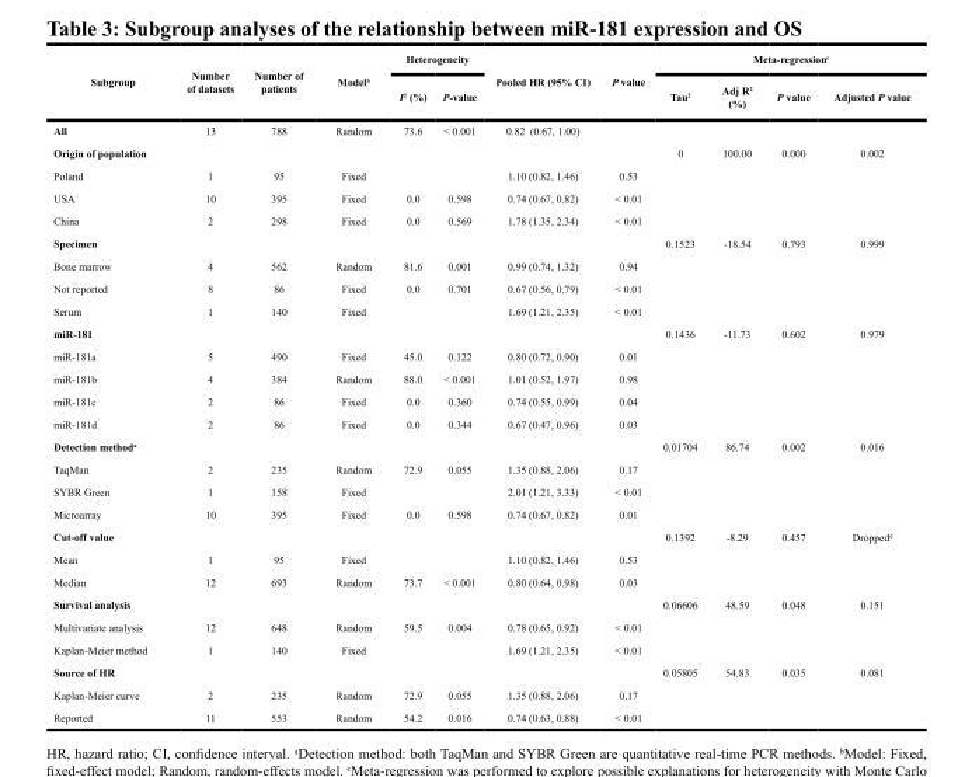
<table><thead><tr><td rowspan="2">Subgroup</td><td rowspan="2">Number of datasets</td><td rowspan="2">Number of patients</td><td rowspan="2">Model<sup>b</sup></td><td colspan="2">Heterogeneity</td><td rowspan="2">Pooled HR (95% CI)</td><td rowspan="2">P value</td><td colspan="4">Meta-regression<sup>c</sup></td></tr><tr><td>I<sup>2</sup> (%)</td><td>P-value</td><td>Tau<sup>2</sup></td><td>Adj R<sup>2</sup> (%)</td><td>P value</td><td>Adjusted P value</td></tr></thead><tbody><tr><td>All</td><td>13</td><td>788</td><td>Random</td><td>73.6</td><td>&lt; 0.001</td><td>0.82 (0.67, 1.00)</td><td></td><td></td><td></td><td></td><td></td></tr><tr><td>Origin of population</td><td></td><td></td><td></td><td></td><td></td><td></td><td></td><td>0</td><td>100.00</td><td>0.000</td><td>0.002</td></tr><tr><td>Poland</td><td>1</td><td>95</td><td>Fixed</td><td></td><td></td><td>1.10 (0.82, 1.46)</td><td>0.53</td><td></td><td></td><td></td><td></td></tr><tr><td>USA</td><td>10</td><td>395</td><td>Fixed</td><td>0.0</td><td>0.598</td><td>0.74 (0.67, 0.82)</td><td>&lt; 0.01</td><td></td><td></td><td></td><td></td></tr><tr><td>China</td><td>2</td><td>298</td><td>Fixed</td><td>0.0</td><td>0.569</td><td>1.78 (1.35, 2.34)</td><td>&lt; 0.01</td><td></td><td></td><td></td><td></td></tr><tr><td>Specimen</td><td></td><td></td><td></td><td></td><td></td><td></td><td></td><td>0.1523</td><td>-18.54</td><td>0.793</td><td>0.999</td></tr><tr><td>Bone marrow</td><td>4</td><td>562</td><td>Random</td><td>81.6</td><td>0.001</td><td>0.99 (0.74, 1.32)</td><td>0.94</td><td></td><td></td><td></td><td></td></tr><tr><td>Not reported</td><td>8</td><td>86</td><td>Fixed</td><td>0.0</td><td>0.701</td><td>0.67 (0.56, 0.79)</td><td>&lt; 0.01</td><td></td><td></td><td></td><td></td></tr><tr><td>Serum</td><td>1</td><td>140</td><td>Fixed</td><td></td><td></td><td>1.69 (1.21, 2.35)</td><td>&lt; 0.01</td><td></td><td></td><td></td><td></td></tr><tr><td>miR-181</td><td></td><td></td><td></td><td></td><td></td><td></td><td></td><td>0.1436</td><td>-11.73</td><td>0.602</td><td>0.979</td></tr><tr><td>miR-181a</td><td>5</td><td>490</td><td>Fixed</td><td>45.0</td><td>0.122</td><td>0.80 (0.72, 0.90)</td><td>0.01</td><td></td><td></td><td></td><td></td></tr><tr><td>miR-181b</td><td>4</td><td>384</td><td>Random</td><td>88.0</td><td>&lt; 0.001</td><td>1.01 (0.52, 1.97)</td><td>0.98</td><td></td><td></td><td></td><td></td></tr><tr><td>miR-181c</td><td>2</td><td>86</td><td>Fixed</td><td>0.0</td><td>0.360</td><td>0.74 (0.55, 0.99)</td><td>0.04</td><td></td><td></td><td></td><td></td></tr><tr><td>miR-181d</td><td>2</td><td>86</td><td>Fixed</td><td>0.0</td><td>0.344</td><td>0.67 (0.47, 0.96)</td><td>0.03</td><td></td><td></td><td></td><td></td></tr><tr><td>Detection method<sup>a</sup></td><td></td><td></td><td></td><td></td><td></td><td></td><td></td><td>0.01704</td><td>86.74</td><td>0.002</td><td>0.016</td></tr><tr><td>TaqMan</td><td>2</td><td>235</td><td>Random</td><td>72.9</td><td>0.055</td><td>1.35 (0.88, 2.06)</td><td>0.17</td><td></td><td></td><td></td><td></td></tr><tr><td>SYBR Green</td><td>1</td><td>158</td><td>Fixed</td><td></td><td></td><td>2.01 (1.21, 3.33)</td><td>&lt; 0.01</td><td></td><td></td><td></td><td></td></tr><tr><td>Microarray</td><td>10</td><td>395</td><td>Fixed</td><td>0.0</td><td>0.598</td><td>0.74 (0.67, 0.82)</td><td>0.01</td><td></td><td></td><td></td><td></td></tr><tr><td>Cut-off value</td><td></td><td></td><td></td><td></td><td></td><td></td><td></td><td>0.1392</td><td>-8.29</td><td>0.457</td><td>Dropped<sup>d</sup></td></tr><tr><td>Mean</td><td>1</td><td>95</td><td>Fixed</td><td></td><td></td><td>1.10 (0.82, 1.46)</td><td>0.53</td><td></td><td></td><td></td><td></td></tr><tr><td>Median</td><td>12</td><td>693</td><td>Random</td><td>73.7</td><td>&lt; 0.001</td><td>0.80 (0.64, 0.98)</td><td>0.03</td><td></td><td></td><td></td><td></td></tr><tr><td>Survival analysis</td><td></td><td></td><td></td><td></td><td></td><td></td><td></td><td>0.06606</td><td>48.59</td><td>0.048</td><td>0.151</td></tr><tr><td>Multivariate analysis</td><td>12</td><td>648</td><td>Random</td><td>59.5</td><td>0.004</td><td>0.78 (0.65, 0.92)</td><td>&lt; 0.01</td><td></td><td></td><td></td><td></td></tr><tr><td>Kaplan-Meier method</td><td>1</td><td>140</td><td>Fixed</td><td></td><td></td><td>1.69 (1.21, 2.35)</td><td>&lt; 0.01</td><td></td><td></td><td></td><td></td></tr><tr><td>Source of HR</td><td></td><td></td><td></td><td></td><td></td><td></td><td></td><td>0.05805</td><td>54.83</td><td>0.035</td><td>0.081</td></tr><tr><td>Kaplan-Meier curve</td><td>2</td><td>235</td><td>Random</td><td>72.9</td><td>0.055</td><td>1.35 (0.88, 2.06)</td><td>0.17</td><td></td><td></td><td></td><td></td></tr><tr><td>Reported</td><td>11</td><td>553</td><td>Random</td><td>54.2</td><td>0.016</td><td>0.74 (0.63, 0.88)</td><td>&lt; 0.01</td><td></td><td></td><td></td><td></td></tr></tbody></table>